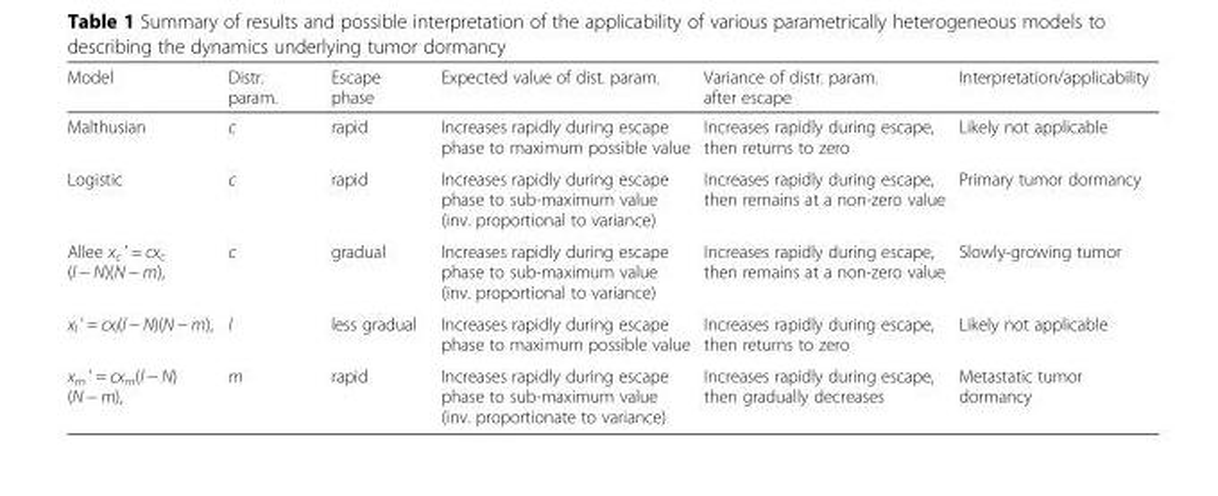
<table><thead><tr><td>Model</td><td>Distr. param.</td><td>Escape phase</td><td>Expected value of dist. param.</td><td>Variance of distr. param. after escape</td><td>Interpretation/applicability</td></tr></thead><tbody><tr><td>Malthusian</td><td>c</td><td>rapid</td><td>Increases rapidly during escape phase to maximum possible value</td><td>Increases rapidly during escape, then returns to zero</td><td>Likely not applicable</td></tr><tr><td>Logistic</td><td>c</td><td>rapid</td><td>Increases rapidly during escape phase to sub-maximum value (inv. proportional to variance)</td><td>Increases rapidly during escape, then remains at a non-zero value</td><td>Primary tumor dormancy</td></tr><tr><td>Allee x<sub>c</sub> &#x27; = cx<sub>c</sub> (l − N)(N − m),</td><td>c</td><td>gradual</td><td>Increases rapidly during escape phase to sub-maximum value (inv. proportional to variance)</td><td>Increases rapidly during escape, then remains at a non-zero value</td><td>Slowly-growing tumor</td></tr><tr><td>x<sub>l</sub> &#x27; = cx<sub>l</sub>(l − N)(N − m),</td><td>l</td><td>less gradual</td><td>Increases rapidly during escape phase to maximum possible value</td><td>Increases rapidly during escape, then returns to zero</td><td>Likely not applicable</td></tr><tr><td>x<sub>m</sub> &#x27; = cx<sub>m</sub>(l − N) (N − m),</td><td>m</td><td>rapid</td><td>Increases rapidly during escape phase to sub-maximum value (inv. proportionate to variance)</td><td>Increases rapidly during escape, then gradually decreases</td><td>Metastatic tumor dormancy</td></tr></tbody></table>